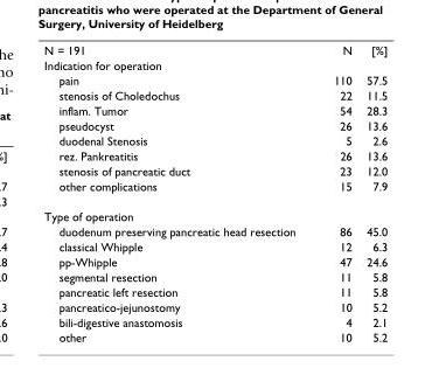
<table><tbody><tr><td>N = 191</td><td>N</td><td>[%]</td></tr><tr><td colspan="3">Indication for operation</td></tr><tr><td>pain</td><td>110</td><td>57.5</td></tr><tr><td>stenosis of Choledochus</td><td>22</td><td>11.5</td></tr><tr><td>inflam. Tumor</td><td>54</td><td>28.3</td></tr><tr><td>pseudocyst</td><td>26</td><td>13.6</td></tr><tr><td>duodenal Stenosis</td><td>5</td><td>2.6</td></tr><tr><td>rez. Pankreatitis</td><td>26</td><td>13.6</td></tr><tr><td>stenosis of pancreatic duct</td><td>23</td><td>12.0</td></tr><tr><td>other complications</td><td>15</td><td>7.9</td></tr><tr><td colspan="3">Type of operation</td></tr><tr><td>duodenum preserving pancreatic head resection</td><td>86</td><td>45.0</td></tr><tr><td>classical Whipple</td><td>12</td><td>6.3</td></tr><tr><td>pp-Whipple</td><td>47</td><td>24.6</td></tr><tr><td>segmental resection</td><td>11</td><td>5.8</td></tr><tr><td>pancreatic left resection</td><td>11</td><td>5.8</td></tr><tr><td>pancreatico-jejunostomy</td><td>10</td><td>5.2</td></tr><tr><td>bili-digestive anastomosis</td><td>4</td><td>2.1</td></tr><tr><td>other</td><td>10</td><td>5.2</td></tr></tbody></table>